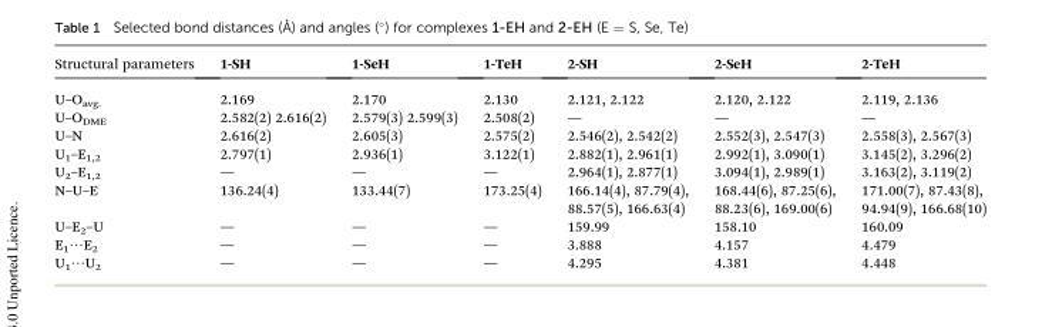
<table><thead><tr><td>Structural parameters</td><td>1-SH</td><td>1-SeH</td><td>1-TeH</td><td>2-SH</td><td>2-SeH</td><td>2-TeH</td></tr></thead><tbody><tr><td>U–O<sub>avg.</sub></td><td>2.169</td><td>2.170</td><td>2.130</td><td>2.121, 2.122</td><td>2.120, 2.122</td><td>2.119, 2.136</td></tr><tr><td>U–O<sub>DME</sub></td><td>2.582(2) 2.616(2)</td><td>2.579(3) 2.599(3)</td><td>2.508(2)</td><td>—</td><td>—</td><td>—</td></tr><tr><td>U–N</td><td>2.616(2)</td><td>2.605(3)</td><td>2.575(2)</td><td>2.546(2), 2.542(2)</td><td>2.552(3), 2.547(3)</td><td>2.558(3), 2.567(3)</td></tr><tr><td>U<sub>1</sub>–E<sub>1,2</sub></td><td>2.797(1)</td><td>2.936(1)</td><td>3.122(1)</td><td>2.882(1), 2.961(1)</td><td>2.992(1), 3.090(1)</td><td>3.145(2), 3.296(2)</td></tr><tr><td>U<sub>2</sub>–E<sub>1,2</sub></td><td>—</td><td>—</td><td>—</td><td>2.964(1), 2.877(1)</td><td>3.094(1), 2.989(1)</td><td>3.163(2), 3.119(2)</td></tr><tr><td>N–U–E</td><td>136.24(4)</td><td>133.44(7)</td><td>173.25(4)</td><td>166.14(4), 87.79(4), 88.57(5), 166.63(4)</td><td>168.44(6), 87.25(6), 88.23(6), 169.00(6)</td><td>171.00(7), 87.43(8), 94.94(9), 166.68(10)</td></tr><tr><td>U–E<sub>2</sub>–U</td><td>—</td><td>—</td><td>—</td><td>159.99</td><td>158.10</td><td>160.09</td></tr><tr><td>E1/E2</td><td>—</td><td>—</td><td>—</td><td>3.888</td><td>4.157</td><td>4.479</td></tr><tr><td>U1/U2</td><td>—</td><td>—</td><td>—</td><td>4.295</td><td>4.381</td><td>4.448</td></tr></tbody></table>